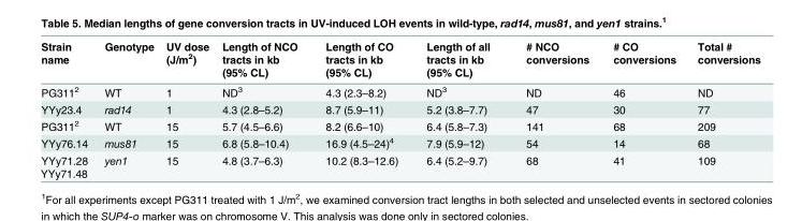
<table><thead><tr><td>Strain name</td><td>Genotype</td><td>UV dose (J/m<sup>2</sup>)</td><td>Length of NCO tracts in kb (95% CL)</td><td>Length of CO tracts in kb (95% CL)</td><td>Length of all tracts in kb (95% CL)</td><td># NCO conversions</td><td># CO conversions</td><td>Total # conversions</td></tr></thead><tbody><tr><td>PG311<sup>2</sup></td><td>WT</td><td>1</td><td>ND<sup>3</sup></td><td>4.3 (2.3–8.2)</td><td>ND<sup>3</sup></td><td>ND</td><td>46</td><td>ND</td></tr><tr><td>YYy23.4</td><td>rad14</td><td>1</td><td>4.3 (2.8–5.2)</td><td>8.7 (5.9–11)</td><td>5.2 (3.8–7.7)</td><td>47</td><td>30</td><td>77</td></tr><tr><td>PG311<sup>2</sup></td><td>WT</td><td>15</td><td>5.7 (4.5–6.6)</td><td>8.2 (6.6–10)</td><td>6.4 (5.8–7.3)</td><td>141</td><td>68</td><td>209</td></tr><tr><td>YYy76.14</td><td>mus81</td><td>15</td><td>6.8 (5.8–10.4)</td><td>16.9 (4.5–24)<sup>4</sup></td><td>7.9 (5.9–12)</td><td>54</td><td>14</td><td>68</td></tr><tr><td>YYy71.28 YYy71.48</td><td>yen1</td><td>15</td><td>4.8 (3.7–6.3)</td><td>10.2 (8.3–12.6)</td><td>6.4 (5.2–9.7)</td><td>68</td><td>41</td><td>109</td></tr></tbody></table>